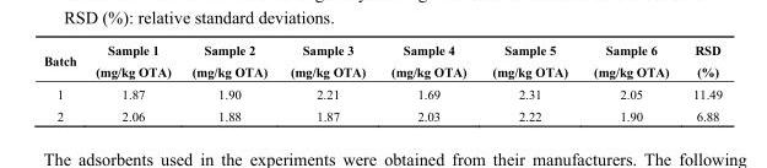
<table><thead><tr><td>Batch</td><td>Sample 1 (mg/kg OTA)</td><td>Sample 2 (mg/kg OTA)</td><td>Sample 3 (mg/kg OTA)</td><td>Sample 4 (mg/kg OTA)</td><td>Sample 5 (mg/kg OTA)</td><td>Sample 6 (mg/kg OTA)</td><td>RSD (%)</td></tr></thead><tbody><tr><td>1</td><td>1.87</td><td>1.90</td><td>2.21</td><td>1.69</td><td>2.31</td><td>2.05</td><td>11.49</td></tr><tr><td>2</td><td>2.06</td><td>1.88</td><td>1.87</td><td>2.03</td><td>2.22</td><td>1.90</td><td>6.88</td></tr></tbody></table>